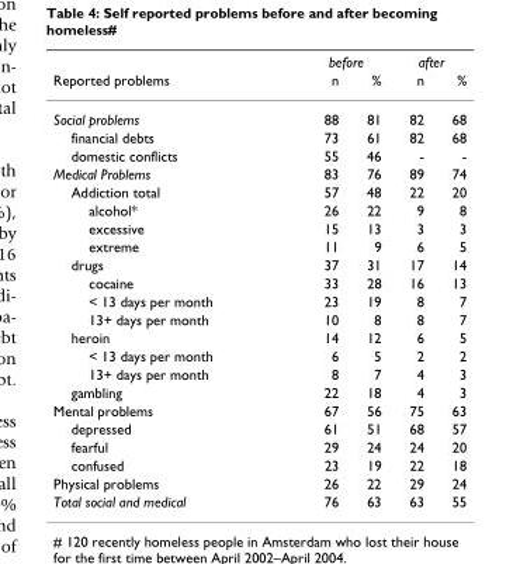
<table><thead><tr><td rowspan="2">Reported problems</td><td colspan="2">before</td><td colspan="2">after</td></tr><tr><td>n</td><td>%</td><td>n</td><td>%</td></tr></thead><tbody><tr><td>Social problems</td><td>88</td><td>81</td><td>82</td><td>68</td></tr><tr><td>financial debts</td><td>73</td><td>61</td><td>82</td><td>68</td></tr><tr><td>domestic conflicts</td><td>55</td><td>46</td><td>-</td><td>-</td></tr><tr><td>Medical Problems</td><td>83</td><td>76</td><td>89</td><td>74</td></tr><tr><td>Addiction total</td><td>57</td><td>48</td><td>22</td><td>20</td></tr><tr><td>alcohol*</td><td>26</td><td>22</td><td>9</td><td>8</td></tr><tr><td>excessive</td><td>15</td><td>13</td><td>3</td><td>3</td></tr><tr><td>extreme</td><td>11</td><td>9</td><td>6</td><td>5</td></tr><tr><td>drugs</td><td>37</td><td>31</td><td>17</td><td>14</td></tr><tr><td>cocaine</td><td>33</td><td>28</td><td>16</td><td>13</td></tr><tr><td>&lt; 13 days per month</td><td>23</td><td>19</td><td>8</td><td>7</td></tr><tr><td>13+ days per month</td><td>10</td><td>8</td><td>8</td><td>7</td></tr><tr><td>heroin</td><td>14</td><td>12</td><td>6</td><td>5</td></tr><tr><td>&lt; 13 days per month</td><td>6</td><td>5</td><td>2</td><td>2</td></tr><tr><td>13+ days per month</td><td>8</td><td>7</td><td>4</td><td>3</td></tr><tr><td>gambling</td><td>22</td><td>18</td><td>4</td><td>3</td></tr><tr><td>Mental problems</td><td>67</td><td>56</td><td>75</td><td>63</td></tr><tr><td>depressed</td><td>61</td><td>51</td><td>68</td><td>57</td></tr><tr><td>fearful</td><td>29</td><td>24</td><td>24</td><td>20</td></tr><tr><td>confused</td><td>23</td><td>19</td><td>22</td><td>18</td></tr><tr><td>Physical problems</td><td>26</td><td>22</td><td>29</td><td>24</td></tr><tr><td>Total social and medical</td><td>76</td><td>63</td><td>63</td><td>55</td></tr></tbody></table>